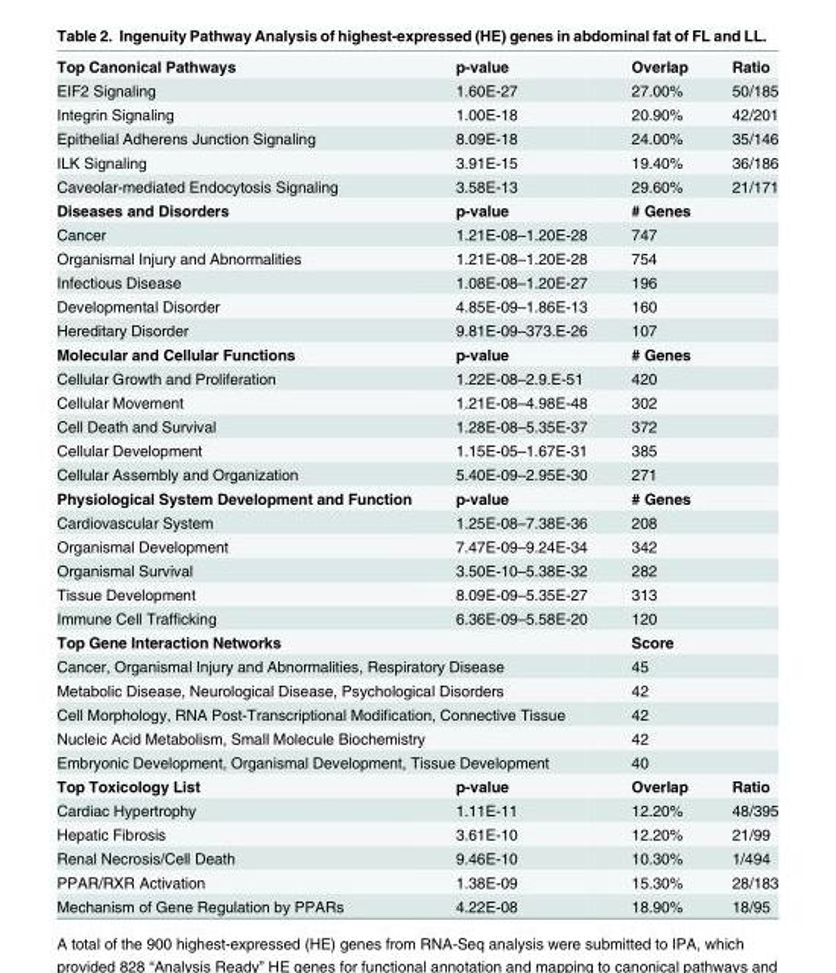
<table><tbody><tr><td>Top Canonical Pathways</td><td>p-value</td><td>Overlap</td><td>Ratio</td></tr><tr><td>EIF2 Signaling</td><td>1.60E-27</td><td>27.00%</td><td>50/185</td></tr><tr><td>Integrin Signaling</td><td>1.00E-18</td><td>20.90%</td><td>42/201</td></tr><tr><td>Epithelial Adherens Junction Signaling</td><td>8.09E-18</td><td>24.00%</td><td>35/146</td></tr><tr><td>ILK Signaling</td><td>3.91E-15</td><td>19.40%</td><td>36/186</td></tr><tr><td>Caveolar-mediated Endocytosis Signaling</td><td>3.58E-13</td><td>29.60%</td><td>21/171</td></tr><tr><td>Diseases and Disorders</td><td>p-value</td><td colspan="2"># Genes</td></tr><tr><td>Cancer</td><td>1.21E-08–1.20E-28</td><td colspan="2">747</td></tr><tr><td>Organismal Injury and Abnormalities</td><td>1.21E-08–1.20E-28</td><td colspan="2">754</td></tr><tr><td>Infectious Disease</td><td>1.08E-08–1.20E-27</td><td colspan="2">196</td></tr><tr><td>Developmental Disorder</td><td>4.85E-09–1.86E-13</td><td colspan="2">160</td></tr><tr><td>Hereditary Disorder</td><td>9.81E-09–373.E-26</td><td colspan="2">107</td></tr><tr><td>Molecular and Cellular Functions</td><td>p-value</td><td colspan="2"># Genes</td></tr><tr><td>Cellular Growth and Proliferation</td><td>1.22E-08–2.9.E-51</td><td colspan="2">420</td></tr><tr><td>Cellular Movement</td><td>1.21E-08–4.98E-48</td><td colspan="2">302</td></tr><tr><td>Cell Death and Survival</td><td>1.28E-08–5.35E-37</td><td colspan="2">372</td></tr><tr><td>Cellular Development</td><td>1.15E-05–1.67E-31</td><td colspan="2">385</td></tr><tr><td>Cellular Assembly and Organization</td><td>5.40E-09–2.95E-30</td><td colspan="2">271</td></tr><tr><td>Physiological System Development and Function</td><td>p-value</td><td colspan="2"># Genes</td></tr><tr><td>Cardiovascular System</td><td>1.25E-08–7.38E-36</td><td colspan="2">208</td></tr><tr><td>Organismal Development</td><td>7.47E-09–9.24E-34</td><td colspan="2">342</td></tr><tr><td>Organismal Survival</td><td>3.50E-10–5.38E-32</td><td colspan="2">282</td></tr><tr><td>Tissue Development</td><td>8.09E-09–5.35E-27</td><td colspan="2">313</td></tr><tr><td>Immune Cell Trafficking</td><td>6.36E-09–5.58E-20</td><td colspan="2">120</td></tr><tr><td colspan="2">Top Gene Interaction Networks</td><td colspan="2">Score</td></tr><tr><td colspan="2">Cancer, Organismal Injury and Abnormalities, Respiratory Disease</td><td colspan="2">45</td></tr><tr><td colspan="2">Metabolic Disease, Neurological Disease, Psychological Disorders</td><td colspan="2">42</td></tr><tr><td colspan="2">Cell Morphology, RNA Post-Transcriptional Modification, Connective Tissue</td><td colspan="2">42</td></tr><tr><td colspan="2">Nucleic Acid Metabolism, Small Molecule Biochemistry</td><td colspan="2">42</td></tr><tr><td colspan="2">Embryonic Development, Organismal Development, Tissue Development</td><td colspan="2">40</td></tr><tr><td>Top Toxicology List</td><td>p-value</td><td>Overlap</td><td>Ratio</td></tr><tr><td>Cardiac Hypertrophy</td><td>1.11E-11</td><td>12.20%</td><td>48/395</td></tr><tr><td>Hepatic Fibrosis</td><td>3.61E-10</td><td>12.20%</td><td>21/99</td></tr><tr><td>Renal Necrosis/Cell Death</td><td>9.46E-10</td><td>10.30%</td><td>1/494</td></tr><tr><td>PPAR/RXR Activation</td><td>1.38E-09</td><td>15.30%</td><td>28/183</td></tr><tr><td>Mechanism of Gene Regulation by PPARs</td><td>4.22E-08</td><td>18.90%</td><td>18/95</td></tr></tbody></table>